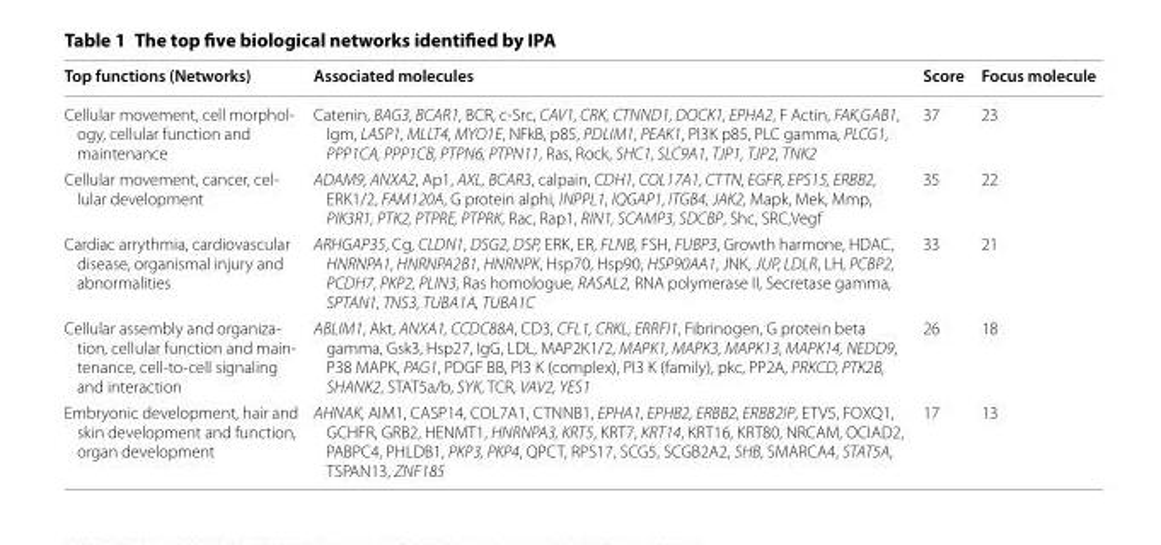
<table><thead><tr><td>Top functions (Networks)</td><td>Associated molecules</td><td>Score</td><td>Focus molecule</td></tr></thead><tbody><tr><td>Cellular movement, cell morphol- ogy, cellular function and maintenance</td><td>Catenin, BAG3, BCAR1, BCR, c-Src, CAV1, CRK, CTNND1, DOCK1, EPHA2, F Actin, FAK,GAB1, Igm, LASP1, MLLT4, MYO1E, NFkB, p85, PDLIM1, PEAK1, PI3K p85, PLC gamma, PLCG1, PPP1CA, PPP1CB, PTPN6, PTPN11, Ras, Rock, SHC1, SLC9A1, TJP1, TJP2, TNK2</td><td>37</td><td>23</td></tr><tr><td>Cellular movement, cancer, cel- lular development</td><td>ADAM9, ANXA2, Ap1, AXL, BCAR3, calpain, CDH1, COL17A1, CTTN, EGFR, EPS15, ERBB2, ERK1/2, FAM120A, G protein alphi, INPPL1, IQGAP1, ITGB4, JAK2, Mapk, Mek, Mmp, PIK3R1, PTK2, PTPRE, PTPRK, Rac, Rap1, RIN1, SCAMP3, SDCBP, Shc, SRC,Vegf</td><td>35</td><td>22</td></tr><tr><td>Cardiac arrythmia, cardiovascular disease, organismal injury and abnormalities</td><td>ARHGAP35, Cg, CLDN1, DSG2, DSP, ERK, ER, FLNB, FSH, FUBP3, Growth harmone, HDAC, HNRNPA1, HNRNPA2B1, HNRNPK, Hsp70, Hsp90, HSP90AA1, JNK, JUP, LDLR, LH, PCBP2, PCDH7, PKP2, PLIN3, Ras homologue, RASAL2, RNA polymerase II, Secretase gamma, SPTAN1, TNS3, TUBA1A, TUBA1C</td><td>33</td><td>21</td></tr><tr><td>Cellular assembly and organiza- tion, cellular function and main- tenance, cell-to-cell signaling and interaction</td><td>ABLIM1, Akt, ANXA1, CCDC88A, CD3, CFL1, CRKL, ERRFI1, Fibrinogen, G protein beta gamma, Gsk3, Hsp27, IgG, LDL, MAP2K1/2, MAPK1, MAPK3, MAPK13, MAPK14, NEDD9, P38 MAPK, PAG1, PDGF BB, PI3 K (complex), PI3 K (family), pkc, PP2A, PRKCD, PTK2B, SHANK2, STAT5a/b, SYK, TCR, VAV2, YES1</td><td>26</td><td>18</td></tr><tr><td>Embryonic development, hair and skin development and function, organ development</td><td>AHNAK, AIM1, CASP14, COL7A1, CTNNB1, EPHA1, EPHB2, ERBB2, ERBB2IP, ETV5, FOXQ1, GCHFR, GRB2, HENMT1, HNRNPA3, KRT5, KRT7, KRT14, KRT16, KRT80, NRCAM, OCIAD2, PABPC4, PHLDB1, PKP3, PKP4, QPCT, RPS17, SCG5, SCGB2A2, SHB, SMARCA4, STAT5A, TSPAN13, ZNF185</td><td>17</td><td>13</td></tr></tbody></table>